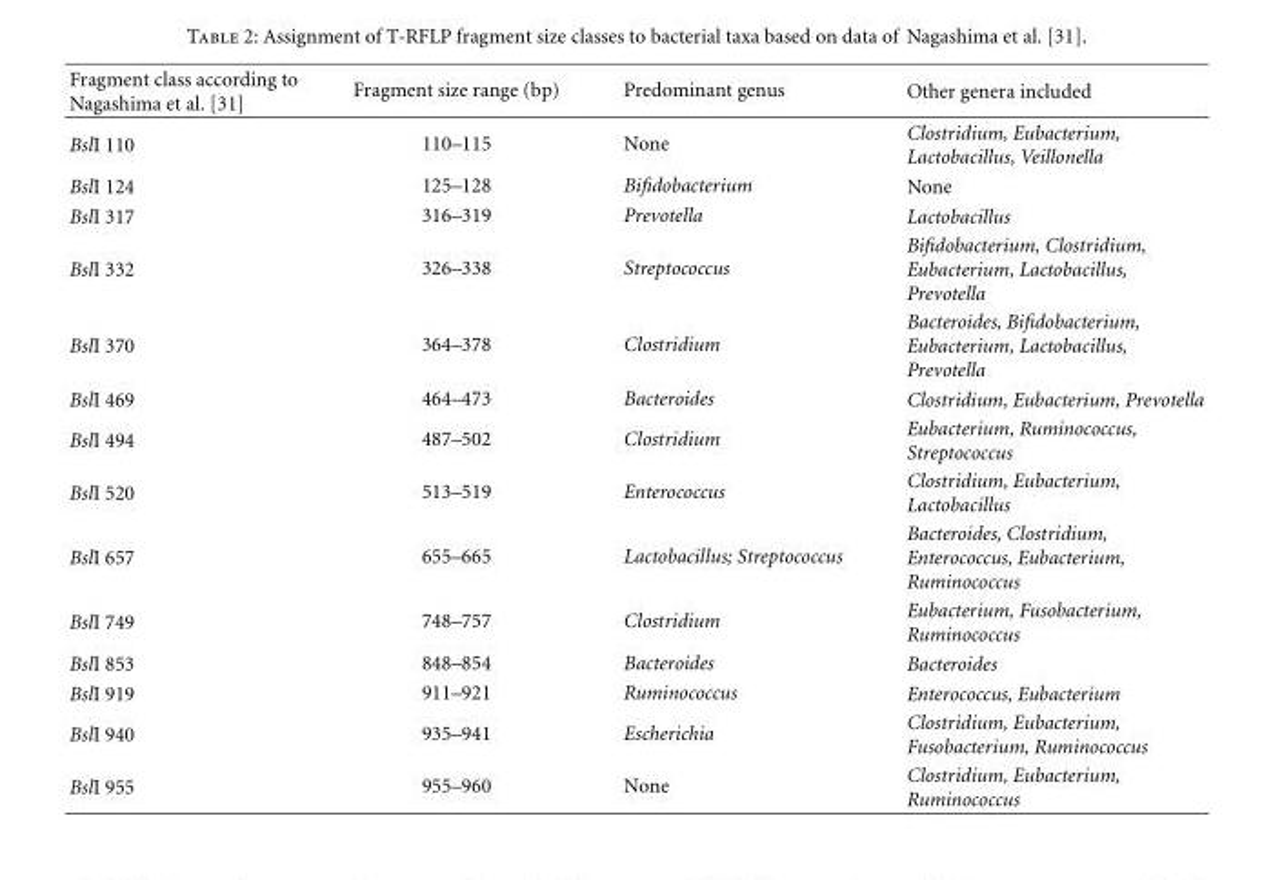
<table><thead><tr><td>Fragment class according to Nagashima et al. [31]</td><td>Fragment size range (bp)</td><td>Predominant genus</td><td>Other genera included</td></tr></thead><tbody><tr><td>BslI 110</td><td>110–115</td><td>None</td><td>Clostridium, Eubacterium, Lactobacillus, Veillonella</td></tr><tr><td>BslI 124</td><td>125–128</td><td>Bifidobacterium</td><td>None</td></tr><tr><td>BslI 317</td><td>316–319</td><td>Prevotella</td><td>Lactobacillus</td></tr><tr><td>BslI 332</td><td>326–338</td><td>Streptococcus</td><td>Bifidobacterium, Clostridium, Eubacterium, Lactobacillus, Prevotella</td></tr><tr><td>BslI 370</td><td>364–378</td><td>Clostridium</td><td>Bacteroides, Bifidobacterium, Eubacterium, Lactobacillus, Prevotella</td></tr><tr><td>BslI 469</td><td>464–473</td><td>Bacteroides</td><td>Clostridium, Eubacterium, Prevotella</td></tr><tr><td>BslI 494</td><td>487–502</td><td>Clostridium</td><td>Eubacterium, Ruminococcus, Streptococcus</td></tr><tr><td>BslI 520</td><td>513–519</td><td>Enterococcus</td><td>Clostridium, Eubacterium, Lactobacillus</td></tr><tr><td>BslI 657</td><td>655–665</td><td>Lactobacillus; Streptococcus</td><td>Bacteroides, Clostridium, Enterococcus, Eubacterium, Ruminococcus</td></tr><tr><td>BslI 749</td><td>748–757</td><td>Clostridium</td><td>Eubacterium, Fusobacterium, Ruminococcus</td></tr><tr><td>BslI 853</td><td>848–854</td><td>Bacteroides</td><td>Bacteroides</td></tr><tr><td>BslI 919</td><td>911–921</td><td>Ruminococcus</td><td>Enterococcus, Eubacterium</td></tr><tr><td>BslI 940</td><td>935–941</td><td>Escherichia</td><td>Clostridium, Eubacterium, Fusobacterium, Ruminococcus</td></tr><tr><td>BslI 955</td><td>955–960</td><td>None</td><td>Clostridium, Eubacterium, Ruminococcus</td></tr></tbody></table>